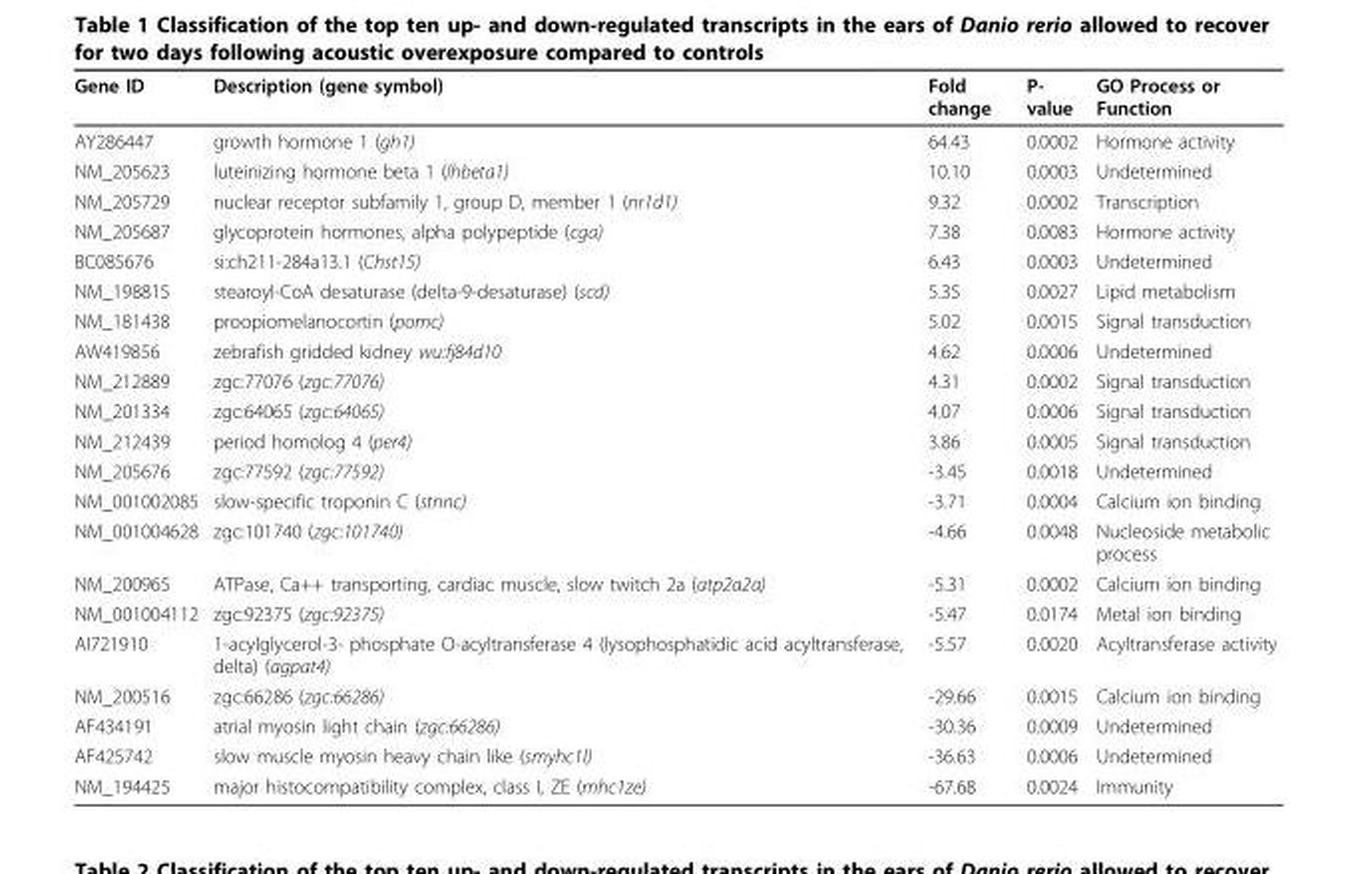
<table><thead><tr><td>Gene ID</td><td>Description (gene symbol)</td><td>Fold change</td><td>P- value</td><td>GO Process or Function</td></tr></thead><tbody><tr><td>AY286447</td><td>growth hormone 1 (gh1)</td><td>64.43</td><td>0.0002</td><td>Hormone activity</td></tr><tr><td>NM_205623</td><td>luteinizing hormone beta 1 (lhbeta1)</td><td>10.10</td><td>0.0003</td><td>Undetermined</td></tr><tr><td>NM_205729</td><td>nuclear receptor subfamily 1, group D, member 1 (nr1d1)</td><td>9.32</td><td>0.0002</td><td>Transcription</td></tr><tr><td>NM_205687</td><td>glycoprotein hormones, alpha polypeptide (cga)</td><td>7.38</td><td>0.0083</td><td>Hormone activity</td></tr><tr><td>BC085676</td><td>si:ch211-284a13.1 (Chst15)</td><td>6.43</td><td>0.0003</td><td>Undetermined</td></tr><tr><td>NM_198815</td><td>stearoyl-CoA desaturase (delta-9-desaturase) (scd)</td><td>5.35</td><td>0.0027</td><td>Lipid metabolism</td></tr><tr><td>NM_181438</td><td>proopiomelanocortin (pomc)</td><td>5.02</td><td>0.0015</td><td>Signal transduction</td></tr><tr><td>AW419856</td><td>zebrafish gridded kidney wu:fj84d10</td><td>4.62</td><td>0.0006</td><td>Undetermined</td></tr><tr><td>NM_212889</td><td>zgc:77076 (zgc:77076)</td><td>4.31</td><td>0.0002</td><td>Signal transduction</td></tr><tr><td>NM_201334</td><td>zgc:64065 (zgc:64065)</td><td>4.07</td><td>0.0006</td><td>Signal transduction</td></tr><tr><td>NM_212439</td><td>period homolog 4 (per4)</td><td>3.86</td><td>0.0005</td><td>Signal transduction</td></tr><tr><td>NM_205676</td><td>zgc:77592 (zgc:77592)</td><td>-3.45</td><td>0.0018</td><td>Undetermined</td></tr><tr><td>NM_001002085</td><td>slow-specific troponin C (stnnc)</td><td>-3.71</td><td>0.0004</td><td>Calcium ion binding</td></tr><tr><td>NM_001004628</td><td>zgc:101740 (zgc:101740)</td><td>-4.66</td><td>0.0048</td><td>Nucleoside metabolic process</td></tr><tr><td>NM_200965</td><td>ATPase, Ca++ transporting, cardiac muscle, slow twitch 2a (atp2a2a)</td><td>-5.31</td><td>0.0002</td><td>Calcium ion binding</td></tr><tr><td>NM_001004112</td><td>zgc:92375 (zgc:92375)</td><td>-5.47</td><td>0.0174</td><td>Metal ion binding</td></tr><tr><td>AI721910</td><td>1-acylglycerol-3- phosphate O-acyltransferase 4 (lysophosphatidic acid acyltransferase, delta) (agpat4)</td><td>-5.57</td><td>0.0020</td><td>Acyltransferase activity</td></tr><tr><td>NM_200516</td><td>zgc:66286 (zgc:66286)</td><td>-29.66</td><td>0.0015</td><td>Calcium ion binding</td></tr><tr><td>AF434191</td><td>atrial myosin light chain (zgc:66286)</td><td>-30.36</td><td>0.0009</td><td>Undetermined</td></tr><tr><td>AF425742</td><td>slow muscle myosin heavy chain like (smyhc1l)</td><td>-36.63</td><td>0.0006</td><td>Undetermined</td></tr><tr><td>NM_194425</td><td>major histocompatibility complex, class I, ZE (mhc1ze)</td><td>-67.68</td><td>0.0024</td><td>Immunity</td></tr></tbody></table>